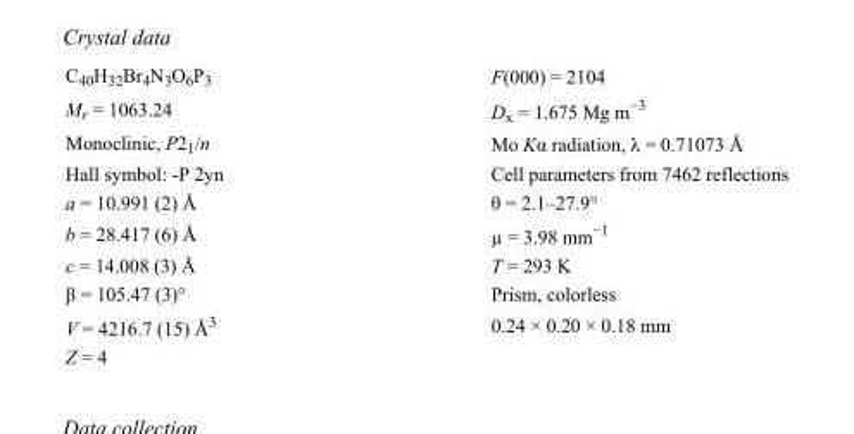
<table><tbody><tr><td>C<sub>40</sub>H<sub>32</sub>Br<sub>4</sub>N<sub>3</sub>O<sub>6</sub>P<sub>3</sub></td><td>F(000) = 2104</td></tr><tr><td>M<sub>r</sub> = 1063.24</td><td>D<sub>x</sub> = 1.675 Mg m<sup>−3</sup></td></tr><tr><td>Monoclinic, P2<sub>1</sub>/n</td><td>Mo Kα radiation, λ = 0.71073 Å</td></tr><tr><td>Hall symbol: -P 2yn</td><td>Cell parameters from 7462 reflections</td></tr><tr><td>a = 10.991 (2) Å</td><td>θ = 2.1–27.9°</td></tr><tr><td>b = 28.417 (6) Å</td><td>µ = 3.98 mm<sup>−1</sup></td></tr><tr><td>c = 14.008 (3) Å</td><td>T = 293 K</td></tr><tr><td>β = 105.47 (3)°</td><td>Prism, colorless</td></tr><tr><td>V = 4216.7 (15) Å<sup>3</sup></td><td>0.24 × 0.20 × 0.18 mm</td></tr><tr><td>Z = 4</td><td></td></tr></tbody></table>